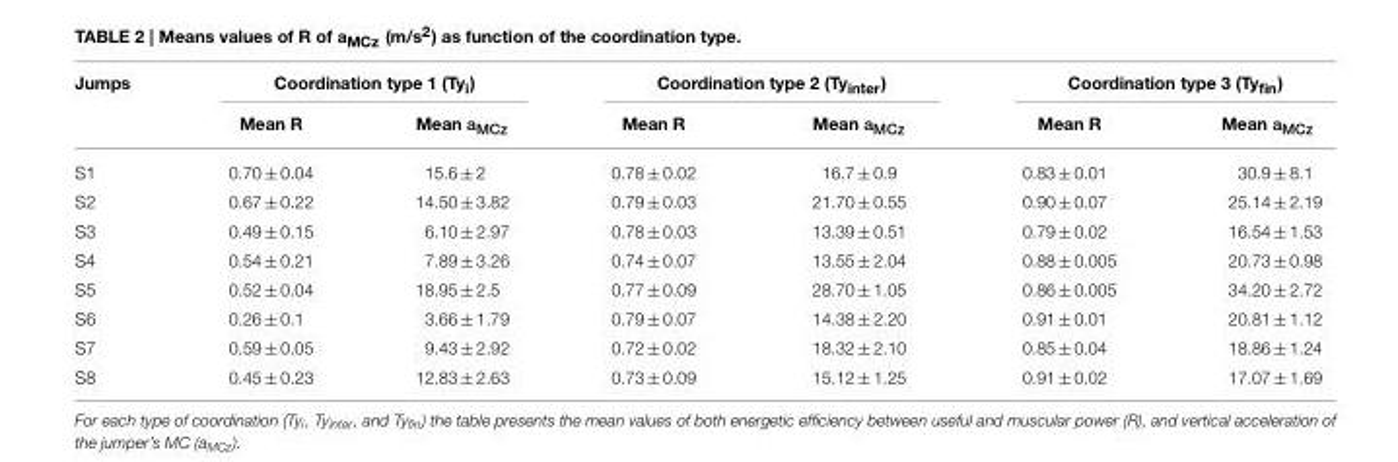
<table><thead><tr><td rowspan="2">Jumps</td><td colspan="2">Coordination type 1 (Ty<sub>i</sub>)</td><td colspan="2">Coordination type 2 (Ty<sub>inter</sub>)</td><td colspan="2">Coordination type 3 (Ty<sub>fin</sub>)</td></tr><tr><td>Mean R</td><td>Mean a<sub>MCz</sub></td><td>Mean R</td><td>Mean a<sub>MCz</sub></td><td>Mean R</td><td>Mean a<sub>MCz</sub></td></tr></thead><tbody><tr><td>S1</td><td>0.70 ± 0.04</td><td>15.6 ± 2</td><td>0.78 ± 0.02</td><td>16.7 ± 0.9</td><td>0.83 ± 0.01</td><td>30.9 ± 8.1</td></tr><tr><td>S2</td><td>0.67 ± 0.22</td><td>14.50 ± 3.82</td><td>0.79 ± 0.03</td><td>21.70 ± 0.55</td><td>0.90 ± 0.07</td><td>25.14 ± 2.19</td></tr><tr><td>S3</td><td>0.49 ± 0.15</td><td>6.10 ± 2.97</td><td>0.78 ± 0.03</td><td>13.39 ± 0.51</td><td>0.79 ± 0.02</td><td>16.54 ± 1.53</td></tr><tr><td>S4</td><td>0.54 ± 0.21</td><td>7.89 ± 3.26</td><td>0.74 ± 0.07</td><td>13.55 ± 2.04</td><td>0.88 ± 0.005</td><td>20.73 ± 0.98</td></tr><tr><td>S5</td><td>0.52 ± 0.04</td><td>18.95 ± 2.5</td><td>0.77 ± 0.09</td><td>28.70 ± 1.05</td><td>0.86 ± 0.005</td><td>34.20 ± 2.72</td></tr><tr><td>S6</td><td>0.26 ± 0.1</td><td>3.66 ± 1.79</td><td>0.79 ± 0.07</td><td>14.38 ± 2.20</td><td>0.91 ± 0.01</td><td>20.81 ± 1.12</td></tr><tr><td>S7</td><td>0.59 ± 0.05</td><td>9.43 ± 2.92</td><td>0.72 ± 0.02</td><td>18.32 ± 2.10</td><td>0.85 ± 0.04</td><td>18.86 ± 1.24</td></tr><tr><td>S8</td><td>0.45 ± 0.23</td><td>12.83 ± 2.63</td><td>0.73 ± 0.09</td><td>15.12 ± 1.25</td><td>0.91 ± 0.02</td><td>17.07 ± 1.69</td></tr></tbody></table>